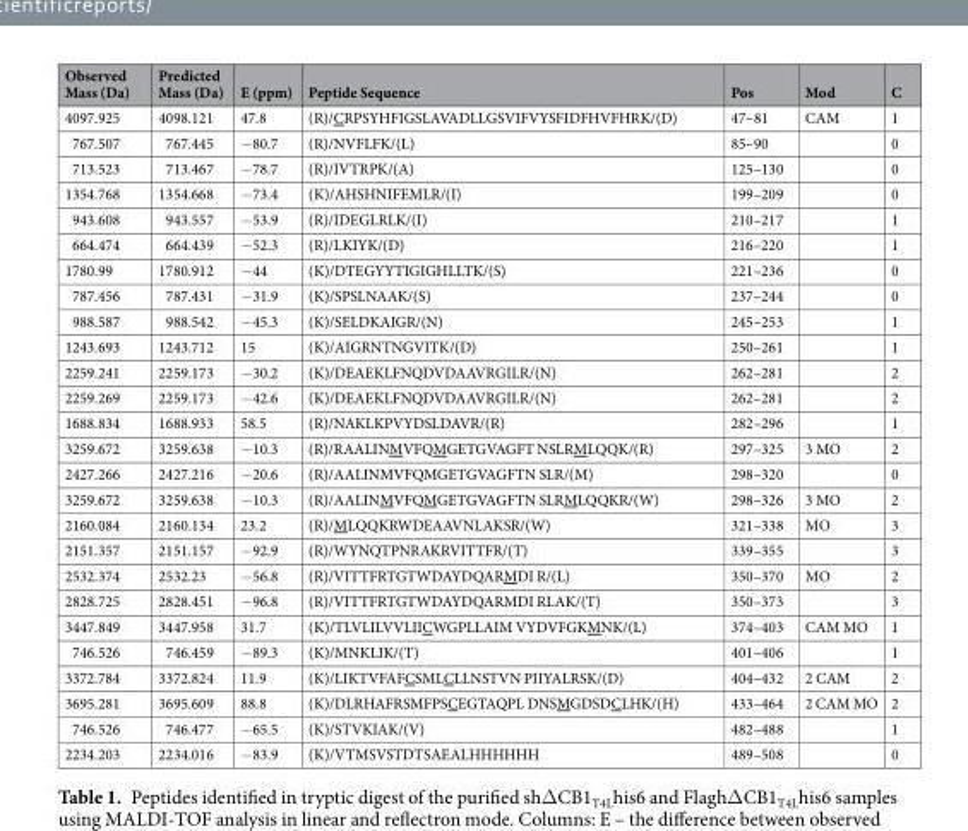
<table><thead><tr><td>Observed Mass (Da)</td><td>Predicted Mass (Da)</td><td>E (ppm)</td><td>Peptide Sequence</td><td>Pos</td><td>Mod</td><td>C</td></tr></thead><tbody><tr><td>4097.925</td><td>4098.121</td><td>47.8</td><td>(R)/CRPSYHFIGSLAVADLLGSVIFVYSFIDFHVFHRK/(D)</td><td>47–81</td><td>CAM</td><td>1</td></tr><tr><td>767.507</td><td>767.445</td><td>−80.7</td><td>(R)/NVFLFK/(L)</td><td>85–90</td><td></td><td>0</td></tr><tr><td>713.523</td><td>713.467</td><td>−78.7</td><td>(R)/IVTRPK/(A)</td><td>125–130</td><td></td><td>0</td></tr><tr><td>1354.768</td><td>1354.668</td><td>−73.4</td><td>(K)/AHSHNIFEMLR/(I)</td><td>199–209</td><td></td><td>0</td></tr><tr><td>943.608</td><td>943.557</td><td>−53.9</td><td>(R)/IDEGLRLK/(I)</td><td>210–217</td><td></td><td>1</td></tr><tr><td>664.474</td><td>664.439</td><td>−52.3</td><td>(R)/LKIYK/(D)</td><td>216–220</td><td></td><td>1</td></tr><tr><td>1780.99</td><td>1780.912</td><td>−44</td><td>(K)/DTEGYYTIGIGHLLTK/(S)</td><td>221–236</td><td></td><td>0</td></tr><tr><td>787.456</td><td>787.431</td><td>−31.9</td><td>(K)/SPSLNAAK/(S)</td><td>237–244</td><td></td><td>0</td></tr><tr><td>988.587</td><td>988.542</td><td>−45.3</td><td>(K)/SELDKAIGR/(N)</td><td>245–253</td><td></td><td>1</td></tr><tr><td>1243.693</td><td>1243.712</td><td>15</td><td>(K)/AIGRNTNGVITK/(D)</td><td>250–261</td><td></td><td>1</td></tr><tr><td>2259.241</td><td>2259.173</td><td>−30.2</td><td>(K)/DEAEKLFNQDVDAAVRGILR/(N)</td><td>262–281</td><td></td><td>2</td></tr><tr><td>2259.269</td><td>2259.173</td><td>−42.6</td><td>(K)/DEAEKLFNQDVDAAVRGILR/(N)</td><td>262–281</td><td></td><td>2</td></tr><tr><td>1688.834</td><td>1688.933</td><td>58.5</td><td>(R)/NAKLKPVYDSLDAVR/(R)</td><td>282–296</td><td></td><td>1</td></tr><tr><td>3259.672</td><td>3259.638</td><td>−10.3</td><td>(R)/RAALINMVFQMGETGVAGFT NSLRMLQQK/(R)</td><td>297–325</td><td>3 MO</td><td>2</td></tr><tr><td>2427.266</td><td>2427.216</td><td>−20.6</td><td>(R)/AALINMVFQMGETGVAGFTN SLR/(M)</td><td>298–320</td><td></td><td>0</td></tr><tr><td>3259.672</td><td>3259.638</td><td>−10.3</td><td>(R)/AALINMVFQMGETGVAGFTN SLRMLQQKR/(W)</td><td>298–326</td><td>3 MO</td><td>2</td></tr><tr><td>2160.084</td><td>2160.134</td><td>23.2</td><td>(R)/MLQQKRWDEAAVNLAKSR/(W)</td><td>321–338</td><td>MO</td><td>3</td></tr><tr><td>2151.357</td><td>2151.157</td><td>−92.9</td><td>(R)/WYNQTPNRAKRVITTFR/(T)</td><td>339–355</td><td></td><td>3</td></tr><tr><td>2532.374</td><td>2532.23</td><td>−56.8</td><td>(R)/VITTFRTGTWDAYDQARMDI R/(L)</td><td>350–370</td><td>MO</td><td>2</td></tr><tr><td>2828.725</td><td>2828.451</td><td>−96.8</td><td>(R)/VITTFRTGTWDAYDQARMDI RLAK/(T)</td><td>350–373</td><td></td><td>3</td></tr><tr><td>3447.849</td><td>3447.958</td><td>31.7</td><td>(K)/TLVLILVVLIICWGPLLAIM VYDVFGKMNK/(L)</td><td>374–403</td><td>CAM MO</td><td>1</td></tr><tr><td>746.526</td><td>746.459</td><td>−89.3</td><td>(K)/MNKLIK/(T)</td><td>401–406</td><td></td><td>1</td></tr><tr><td>3372.784</td><td>3372.824</td><td>11.9</td><td>(K)/LIKTVFAFCSMLCLLNSTVN PIIYALRSK/(D)</td><td>404–432</td><td>2 CAM</td><td>2</td></tr><tr><td>3695.281</td><td>3695.609</td><td>88.8</td><td>(K)/DLRHAFRSMFPSCEGTAQPL DNSMGDSDCLHK/(H)</td><td>433–464</td><td>2 CAM MO</td><td>2</td></tr><tr><td>746.526</td><td>746.477</td><td>−65.5</td><td>(K)/STVKIAK/(V)</td><td>482–488</td><td></td><td>1</td></tr><tr><td>2234.203</td><td>2234.016</td><td>−83.9</td><td>(K)/VTMSVSTDTSAEALHHHHHH</td><td>489–508</td><td></td><td>0</td></tr></tbody></table>